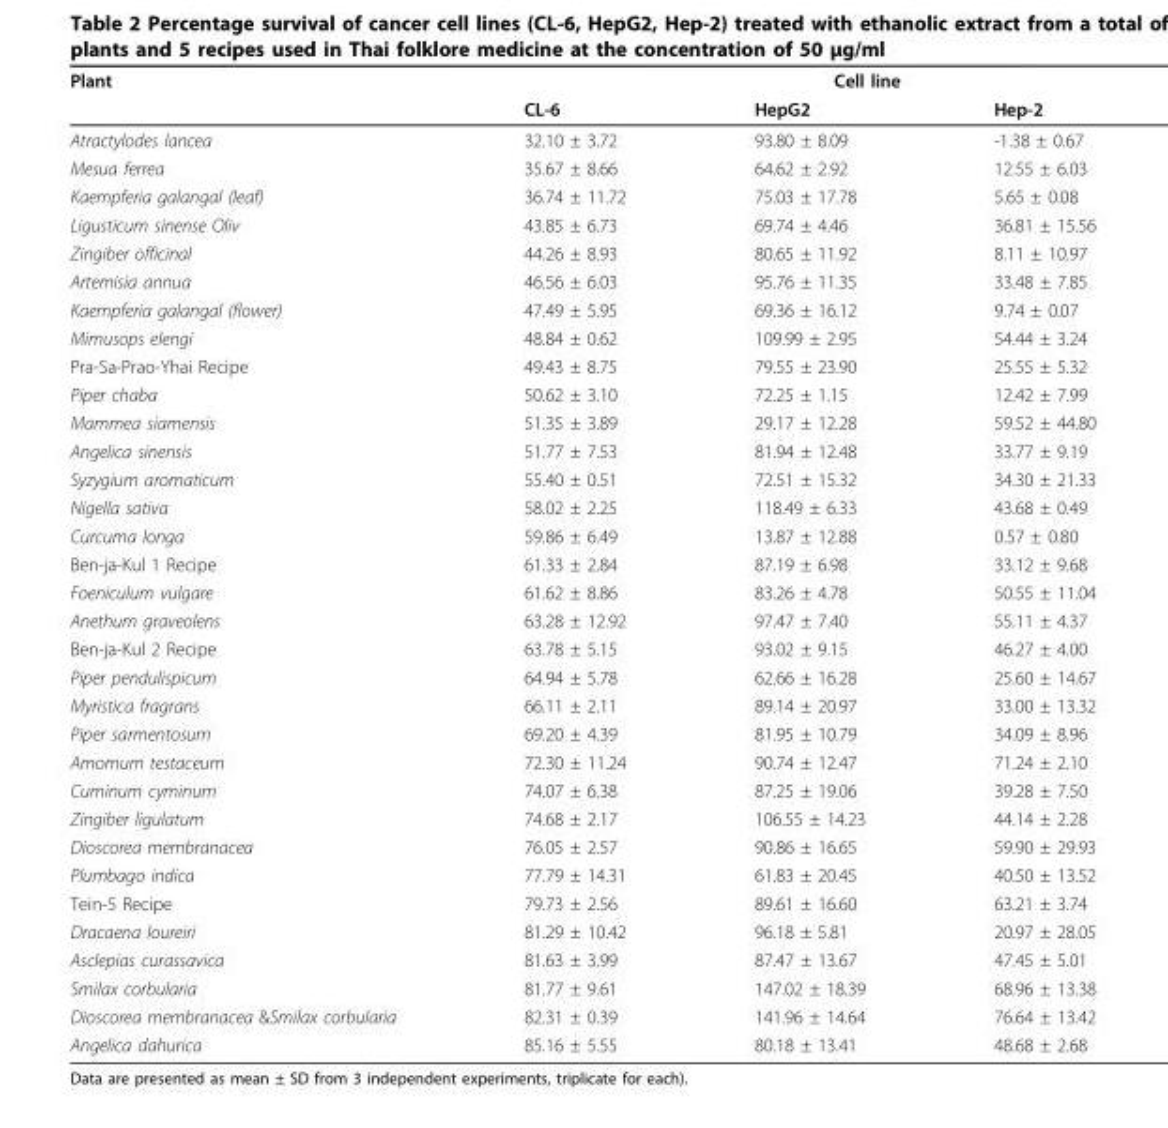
<table><thead><tr><td rowspan="2">Plant</td><td colspan="3">Cell line</td></tr><tr><td>CL-6</td><td>HepG2</td><td>Hep-2</td></tr></thead><tbody><tr><td>Atractylodes lancea</td><td>32.10 ± 3.72</td><td>93.80 ± 8.09</td><td>-1.38 ± 0.67</td></tr><tr><td>Mesua ferrea</td><td>35.67 ± 8.66</td><td>64.62 ± 2.92</td><td>12.55 ± 6.03</td></tr><tr><td>Kaempferia galangal (leaf)</td><td>36.74 ± 11.72</td><td>75.03 ± 17.78</td><td>5.65 ± 0.08</td></tr><tr><td>Ligusticum sinense Oliv</td><td>43.85 ± 6.73</td><td>69.74 ± 4.46</td><td>36.81 ± 15.56</td></tr><tr><td>Zingiber officinal</td><td>44.26 ± 8.93</td><td>80.65 ± 11.92</td><td>8.11 ± 10.97</td></tr><tr><td>Artemisia annua</td><td>46.56 ± 6.03</td><td>95.76 ± 11.35</td><td>33.48 ± 7.85</td></tr><tr><td>Kaempferia galangal (flower)</td><td>47.49 ± 5.95</td><td>69.36 ± 16.12</td><td>9.74 ± 0.07</td></tr><tr><td>Mimusops elengi</td><td>48.84 ± 0.62</td><td>109.99 ± 2.95</td><td>54.44 ± 3.24</td></tr><tr><td>Pra-Sa-Prao-Yhai Recipe</td><td>49.43 ± 8.75</td><td>79.55 ± 23.90</td><td>25.55 ± 5.32</td></tr><tr><td>Piper chaba</td><td>50.62 ± 3.10</td><td>72.25 ± 1.15</td><td>12.42 ± 7.99</td></tr><tr><td>Mammea siamensis</td><td>51.35 ± 3.89</td><td>29.17 ± 12.28</td><td>59.52 ± 44.80</td></tr><tr><td>Angelica sinensis</td><td>51.77 ± 7.53</td><td>81.94 ± 12.48</td><td>33.77 ± 9.19</td></tr><tr><td>Syzygium aromaticum</td><td>55.40 ± 0.51</td><td>72.51 ± 15.32</td><td>34.30 ± 21.33</td></tr><tr><td>Nigella sativa</td><td>58.02 ± 2.25</td><td>118.49 ± 6.33</td><td>43.68 ± 0.49</td></tr><tr><td>Curcuma longa</td><td>59.86 ± 6.49</td><td>13.87 ± 12.88</td><td>0.57 ± 0.80</td></tr><tr><td>Ben-ja-Kul 1 Recipe</td><td>61.33 ± 2.84</td><td>87.19 ± 6.98</td><td>33.12 ± 9.68</td></tr><tr><td>Foeniculum vulgare</td><td>61.62 ± 8.86</td><td>83.26 ± 4.78</td><td>50.55 ± 11.04</td></tr><tr><td>Anethum graveolens</td><td>63.28 ± 12.92</td><td>97.47 ± 7.40</td><td>55.11 ± 4.37</td></tr><tr><td>Ben-ja-Kul 2 Recipe</td><td>63.78 ± 5.15</td><td>93.02 ± 9.15</td><td>46.27 ± 4.00</td></tr><tr><td>Piper pendulispicum</td><td>64.94 ± 5.78</td><td>62.66 ± 16.28</td><td>25.60 ± 14.67</td></tr><tr><td>Myristica fragrans</td><td>66.11 ± 2.11</td><td>89.14 ± 20.97</td><td>33.00 ± 13.32</td></tr><tr><td>Piper sarmentosum</td><td>69.20 ± 4.39</td><td>81.95 ± 10.79</td><td>34.09 ± 8.96</td></tr><tr><td>Amomum testaceum</td><td>72.30 ± 11.24</td><td>90.74 ± 12.47</td><td>71.24 ± 2.10</td></tr><tr><td>Cuminum cyminum</td><td>74.07 ± 6.38</td><td>87.25 ± 19.06</td><td>39.28 ± 7.50</td></tr><tr><td>Zingiber ligulatum</td><td>74.68 ± 2.17</td><td>106.55 ± 14.23</td><td>44.14 ± 2.28</td></tr><tr><td>Dioscorea membranacea</td><td>76.05 ± 2.57</td><td>90.86 ± 16.65</td><td>59.90 ± 29.93</td></tr><tr><td>Plumbago indica</td><td>77.79 ± 14.31</td><td>61.83 ± 20.45</td><td>40.50 ± 13.52</td></tr><tr><td>Tein-5 Recipe</td><td>79.73 ± 2.56</td><td>89.61 ± 16.60</td><td>63.21 ± 3.74</td></tr><tr><td>Dracaena loureiri</td><td>81.29 ± 10.42</td><td>96.18 ± 5.81</td><td>20.97 ± 28.05</td></tr><tr><td>Asclepias curassavica</td><td>81.63 ± 3.99</td><td>87.47 ± 13.67</td><td>47.45 ± 5.01</td></tr><tr><td>Smilax corbularia</td><td>81.77 ± 9.61</td><td>147.02 ± 18.39</td><td>68.96 ± 13.38</td></tr><tr><td>Dioscorea membranacea &amp;Smilax corbularia</td><td>82.31 ± 0.39</td><td>141.96 ± 14.64</td><td>76.64 ± 13.42</td></tr><tr><td>Angelica dahurica</td><td>85.16 ± 5.55</td><td>80.18 ± 13.41</td><td>48.68 ± 2.68</td></tr></tbody></table>